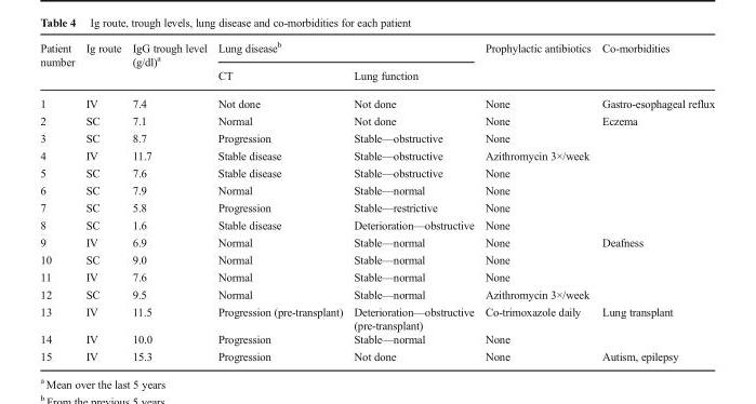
<table><thead><tr><td rowspan="2">Patient number</td><td rowspan="2">Ig route</td><td rowspan="2">IgG trough level (g/dl)<sup>a</sup></td><td colspan="2">Lung disease<sup>b</sup></td><td rowspan="2">Prophylactic antibiotics</td><td rowspan="2">Co-morbidities</td></tr><tr><td>CT</td><td>Lung function</td></tr></thead><tbody><tr><td>1</td><td>IV</td><td>7.4</td><td>Not done</td><td>Not done</td><td>None</td><td>Gastro-esophageal reflux</td></tr><tr><td>2</td><td>SC</td><td>7.1</td><td>Normal</td><td>Not done</td><td>None</td><td>Eczema</td></tr><tr><td>3</td><td>SC</td><td>8.7</td><td>Progression</td><td>Stable—obstructive</td><td>None</td><td></td></tr><tr><td>4</td><td>IV</td><td>11.7</td><td>Stable disease</td><td>Stable—obstructive</td><td>Azithromycin 3×/week</td><td></td></tr><tr><td>5</td><td>SC</td><td>7.6</td><td>Stable disease</td><td>Stable—obstructive</td><td>None</td><td></td></tr><tr><td>6</td><td>SC</td><td>7.9</td><td>Normal</td><td>Stable—normal</td><td>None</td><td></td></tr><tr><td>7</td><td>SC</td><td>5.8</td><td>Progression</td><td>Stable—restrictive</td><td>None</td><td></td></tr><tr><td>8</td><td>SC</td><td>1.6</td><td>Stable disease</td><td>Deterioration—obstructive</td><td>None</td><td></td></tr><tr><td>9</td><td>IV</td><td>6.9</td><td>Normal</td><td>Stable—normal</td><td>None</td><td>Deafness</td></tr><tr><td>10</td><td>SC</td><td>9.0</td><td>Normal</td><td>Stable—normal</td><td>None</td><td></td></tr><tr><td>11</td><td>IV</td><td>7.6</td><td>Normal</td><td>Stable—normal</td><td>None</td><td></td></tr><tr><td>12</td><td>SC</td><td>9.5</td><td>Normal</td><td>Stable—normal</td><td>Azithromycin 3×/week</td><td></td></tr><tr><td>13</td><td>IV</td><td>11.5</td><td>Progression (pre-transplant)</td><td>Deterioration—obstructive (pre-transplant)</td><td>Co-trimoxazole daily</td><td>Lung transplant</td></tr><tr><td>14</td><td>IV</td><td>10.0</td><td>Progression</td><td>Stable—normal</td><td>None</td><td></td></tr><tr><td>15</td><td>IV</td><td>15.3</td><td>Progression</td><td>Not done</td><td>None</td><td>Autism, epilepsy</td></tr></tbody></table>